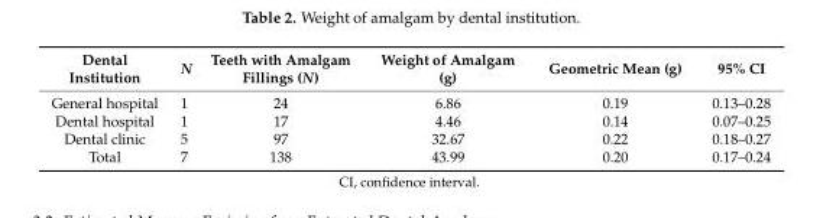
<table><thead><tr><td>Dental Institution</td><td>N</td><td>Teeth with Amalgam Fillings (N)</td><td>Weight of Amalgam (g)</td><td>Geometric Mean (g)</td><td>95% CI</td></tr></thead><tbody><tr><td>General hospital</td><td>1</td><td>24</td><td>6.86</td><td>0.19</td><td>0.13–0.28</td></tr><tr><td>Dental hospital</td><td>1</td><td>17</td><td>4.46</td><td>0.14</td><td>0.07–0.25</td></tr><tr><td>Dental clinic</td><td>5</td><td>97</td><td>32.67</td><td>0.22</td><td>0.18–0.27</td></tr><tr><td>Total</td><td>7</td><td>138</td><td>43.99</td><td>0.20</td><td>0.17–0.24</td></tr></tbody></table>